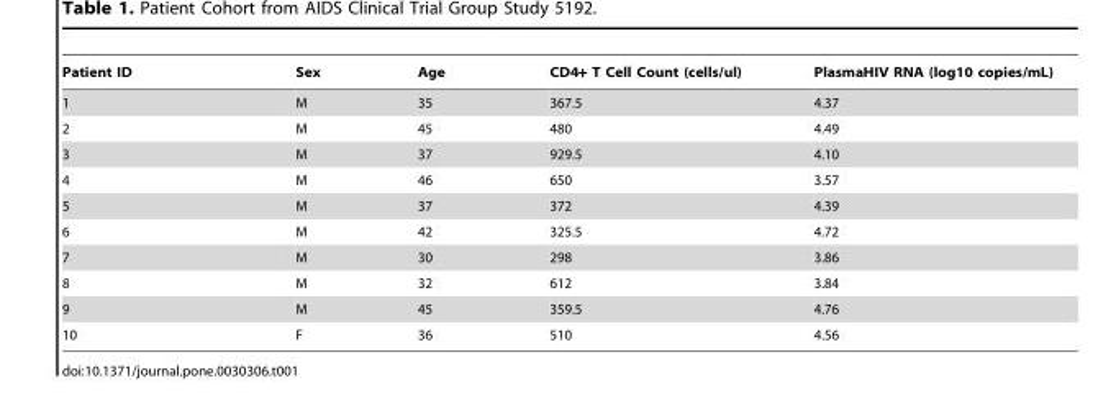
<table><thead><tr><td>Patient ID</td><td>Sex</td><td>Age</td><td>CD4+ T Cell Count (cells/ul)</td><td>PlasmaHIV RNA (log10 copies/mL)</td></tr></thead><tbody><tr><td>1</td><td>M</td><td>35</td><td>367.5</td><td>4.37</td></tr><tr><td>2</td><td>M</td><td>45</td><td>480</td><td>4.49</td></tr><tr><td>3</td><td>M</td><td>37</td><td>929.5</td><td>4.10</td></tr><tr><td>4</td><td>M</td><td>46</td><td>650</td><td>3.57</td></tr><tr><td>5</td><td>M</td><td>37</td><td>372</td><td>4.39</td></tr><tr><td>6</td><td>M</td><td>42</td><td>325.5</td><td>4.72</td></tr><tr><td>7</td><td>M</td><td>30</td><td>298</td><td>3.86</td></tr><tr><td>8</td><td>M</td><td>32</td><td>612</td><td>3.84</td></tr><tr><td>9</td><td>M</td><td>45</td><td>359.5</td><td>4.76</td></tr><tr><td>10</td><td>F</td><td>36</td><td>510</td><td>4.56</td></tr></tbody></table>